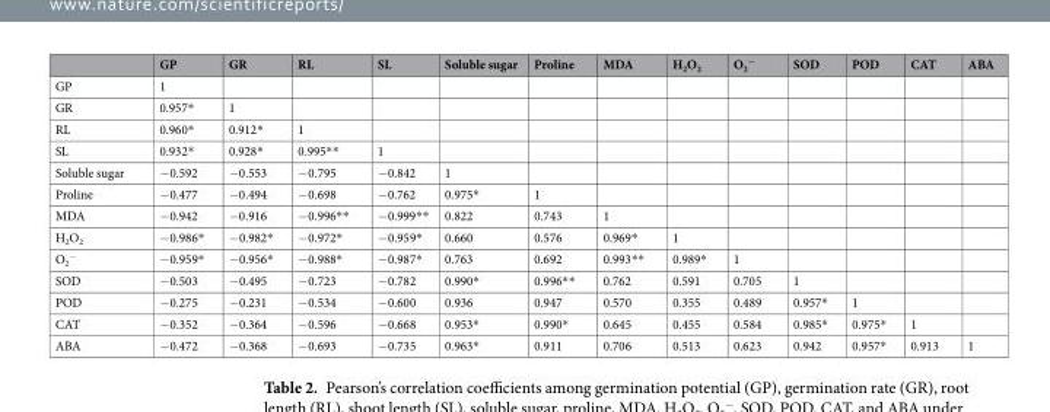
<table><thead><tr><td></td><td>GP</td><td>GR</td><td>RL</td><td>SL</td><td>Soluble sugar</td><td>Proline</td><td>MDA</td><td>H<sub>2</sub>O<sub>2</sub></td><td>O<sub>2</sub> <sup>−</sup></td><td>SOD</td><td>POD</td><td>CAT</td><td>ABA</td></tr></thead><tbody><tr><td>GP</td><td>1</td><td></td><td></td><td></td><td></td><td></td><td></td><td></td><td></td><td></td><td></td><td></td><td></td></tr><tr><td>GR</td><td>0.957*</td><td>1</td><td></td><td></td><td></td><td></td><td></td><td></td><td></td><td></td><td></td><td></td><td></td></tr><tr><td>RL</td><td>0.960*</td><td>0.912*</td><td>1</td><td></td><td></td><td></td><td></td><td></td><td></td><td></td><td></td><td></td><td></td></tr><tr><td>SL</td><td>0.932*</td><td>0.928*</td><td>0.995**</td><td>1</td><td></td><td></td><td></td><td></td><td></td><td></td><td></td><td></td><td></td></tr><tr><td>Soluble sugar</td><td>−0.592</td><td>−0.553</td><td>−0.795</td><td>−0.842</td><td>1</td><td></td><td></td><td></td><td></td><td></td><td></td><td></td><td></td></tr><tr><td>Proline</td><td>−0.477</td><td>−0.494</td><td>−0.698</td><td>−0.762</td><td>0.975*</td><td>1</td><td></td><td></td><td></td><td></td><td></td><td></td><td></td></tr><tr><td>MDA</td><td>−0.942</td><td>−0.916</td><td>−0.996**</td><td>−0.999**</td><td>0.822</td><td>0.743</td><td>1</td><td></td><td></td><td></td><td></td><td></td><td></td></tr><tr><td>H<sub>2</sub>O<sub>2</sub></td><td>−0.986*</td><td>−0.982*</td><td>−0.972*</td><td>−0.959*</td><td>0.660</td><td>0.576</td><td>0.969*</td><td>1</td><td></td><td></td><td></td><td></td><td></td></tr><tr><td>O<sub>2</sub> <sup>−</sup></td><td>−0.959*</td><td>−0.956*</td><td>−0.988*</td><td>−0.987*</td><td>0.763</td><td>0.692</td><td>0.993**</td><td>0.989*</td><td>1</td><td></td><td></td><td></td><td></td></tr><tr><td>SOD</td><td>−0.503</td><td>−0.495</td><td>−0.723</td><td>−0.782</td><td>0.990*</td><td>0.996**</td><td>0.762</td><td>0.591</td><td>0.705</td><td>1</td><td></td><td></td><td></td></tr><tr><td>POD</td><td>−0.275</td><td>−0.231</td><td>−0.534</td><td>−0.600</td><td>0.936</td><td>0.947</td><td>0.570</td><td>0.355</td><td>0.489</td><td>0.957*</td><td>1</td><td></td><td></td></tr><tr><td>CAT</td><td>−0.352</td><td>−0.364</td><td>−0.596</td><td>−0.668</td><td>0.953*</td><td>0.990*</td><td>0.645</td><td>0.455</td><td>0.584</td><td>0.985*</td><td>0.975*</td><td>1</td><td></td></tr><tr><td>ABA</td><td>−0.472</td><td>−0.368</td><td>−0.693</td><td>−0.735</td><td>0.963*</td><td>0.911</td><td>0.706</td><td>0.513</td><td>0.623</td><td>0.942</td><td>0.957*</td><td>0.913</td><td>1</td></tr></tbody></table>